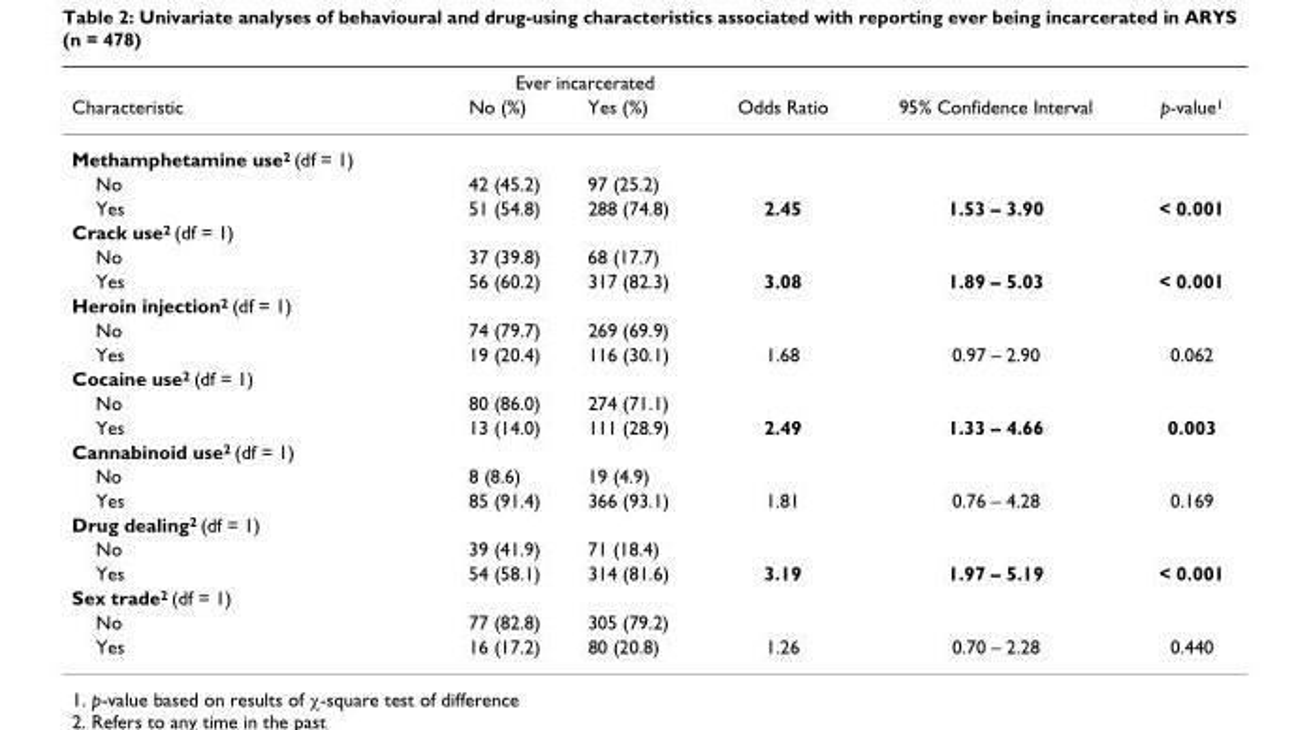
<table><thead><tr><td rowspan="2">Characteristic</td><td colspan="2">Ever incarcerated</td><td rowspan="2">Odds Ratio</td><td rowspan="2">95% Confidence Interval</td><td rowspan="2">p-value<sup>1</sup></td></tr><tr><td>No (%)</td><td>Yes (%)</td></tr></thead><tbody><tr><td colspan="6">Methamphetamine use<sup>2</sup> (df = 1)</td></tr><tr><td>No</td><td>42 (45.2)</td><td>97 (25.2)</td><td></td><td></td><td></td></tr><tr><td>Yes</td><td>51 (54.8)</td><td>288 (74.8)</td><td>2.45</td><td>1.53 – 3.90</td><td>&lt; 0.001</td></tr><tr><td colspan="6">Crack use<sup>2</sup> (df = 1)</td></tr><tr><td>No</td><td>37 (39.8)</td><td>68 (17.7)</td><td></td><td></td><td></td></tr><tr><td>Yes</td><td>56 (60.2)</td><td>317 (82.3)</td><td>3.08</td><td>1.89 – 5.03</td><td>&lt; 0.001</td></tr><tr><td colspan="6">Heroin injection<sup>2</sup> (df = 1)</td></tr><tr><td>No</td><td>74 (79.7)</td><td>269 (69.9)</td><td></td><td></td><td></td></tr><tr><td>Yes</td><td>19 (20.4)</td><td>116 (30.1)</td><td>1.68</td><td>0.97 – 2.90</td><td>0.062</td></tr><tr><td colspan="6">Cocaine use<sup>2</sup> (df = 1)</td></tr><tr><td>No</td><td>80 (86.0)</td><td>274 (71.1)</td><td></td><td></td><td></td></tr><tr><td>Yes</td><td>13 (14.0)</td><td>111 (28.9)</td><td>2.49</td><td>1.33 – 4.66</td><td>0.003</td></tr><tr><td colspan="6">Cannabinoid use<sup>2</sup> (df = 1)</td></tr><tr><td>No</td><td>8 (8.6)</td><td>19 (4.9)</td><td></td><td></td><td></td></tr><tr><td>Yes</td><td>85 (91.4)</td><td>366 (93.1)</td><td>1.81</td><td>0.76 – 4.28</td><td>0.169</td></tr><tr><td colspan="6">Drug dealing<sup>2</sup> (df = 1)</td></tr><tr><td>No</td><td>39 (41.9)</td><td>71 (18.4)</td><td></td><td></td><td></td></tr><tr><td>Yes</td><td>54 (58.1)</td><td>314 (81.6)</td><td>3.19</td><td>1.97 – 5.19</td><td>&lt; 0.001</td></tr><tr><td colspan="6">Sex trade<sup>2</sup> (df = 1)</td></tr><tr><td>No</td><td>77 (82.8)</td><td>305 (79.2)</td><td></td><td></td><td></td></tr><tr><td>Yes</td><td>16 (17.2)</td><td>80 (20.8)</td><td>1.26</td><td>0.70 – 2.28</td><td>0.440</td></tr></tbody></table>